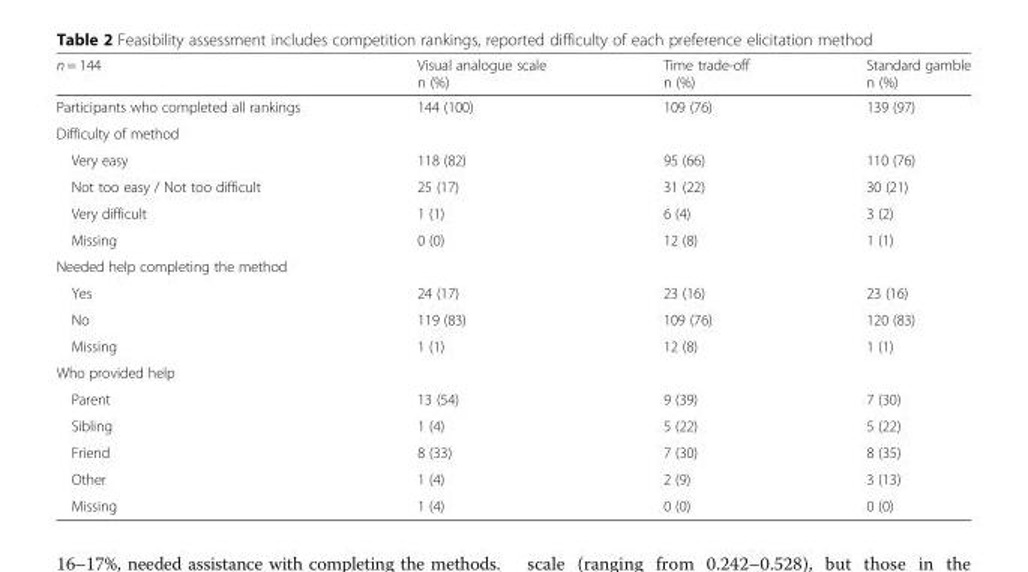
<table><thead><tr><td>n = 144</td><td>Visual analogue scale n (%)</td><td>Time trade-off n (%)</td><td>Standard gamble n (%)</td></tr></thead><tbody><tr><td>Participants who completed all rankings</td><td>144 (100)</td><td>109 (76)</td><td>139 (97)</td></tr><tr><td colspan="4">Difficulty of method</td></tr><tr><td>Very easy</td><td>118 (82)</td><td>95 (66)</td><td>110 (76)</td></tr><tr><td>Not too easy / Not too difficult</td><td>25 (17)</td><td>31 (22)</td><td>30 (21)</td></tr><tr><td>Very difficult</td><td>1 (1)</td><td>6 (4)</td><td>3 (2)</td></tr><tr><td>Missing</td><td>0 (0)</td><td>12 (8)</td><td>1 (1)</td></tr><tr><td colspan="4">Needed help completing the method</td></tr><tr><td>Yes</td><td>24 (17)</td><td>23 (16)</td><td>23 (16)</td></tr><tr><td>No</td><td>119 (83)</td><td>109 (76)</td><td>120 (83)</td></tr><tr><td>Missing</td><td>1 (1)</td><td>12 (8)</td><td>1 (1)</td></tr><tr><td colspan="4">Who provided help</td></tr><tr><td>Parent</td><td>13 (54)</td><td>9 (39)</td><td>7 (30)</td></tr><tr><td>Sibling</td><td>1 (4)</td><td>5 (22)</td><td>5 (22)</td></tr><tr><td>Friend</td><td>8 (33)</td><td>7 (30)</td><td>8 (35)</td></tr><tr><td>Other</td><td>1 (4)</td><td>2 (9)</td><td>3 (13)</td></tr><tr><td>Missing</td><td>1 (4)</td><td>0 (0)</td><td>0 (0)</td></tr></tbody></table>